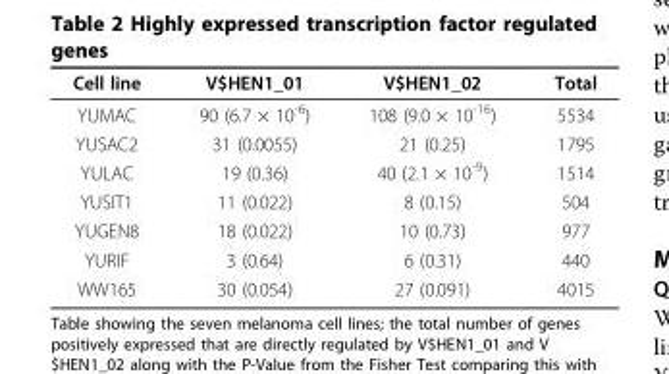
<table><thead><tr><td>Cell line</td><td>V$HEN1_01</td><td>V$HEN1_02</td><td>Total</td></tr></thead><tbody><tr><td>YUMAC</td><td>90 (6.7 × 10<sup>-6</sup>)</td><td>108 (9.0 × 10<sup>-16</sup>)</td><td>5534</td></tr><tr><td>YUSAC2</td><td>31 (0.0055)</td><td>21 (0.25)</td><td>1795</td></tr><tr><td>YULAC</td><td>19 (0.36)</td><td>40 (2.1 × 10<sup>-9</sup>)</td><td>1514</td></tr><tr><td>YUSIT1</td><td>11 (0.022)</td><td>8 (0.15)</td><td>504</td></tr><tr><td>YUGEN8</td><td>18 (0.022)</td><td>10 (0.73)</td><td>977</td></tr><tr><td>YURIF</td><td>3 (0.64)</td><td>6 (0.31)</td><td>440</td></tr><tr><td>WW165</td><td>30 (0.054)</td><td>27 (0.091)</td><td>4015</td></tr></tbody></table>